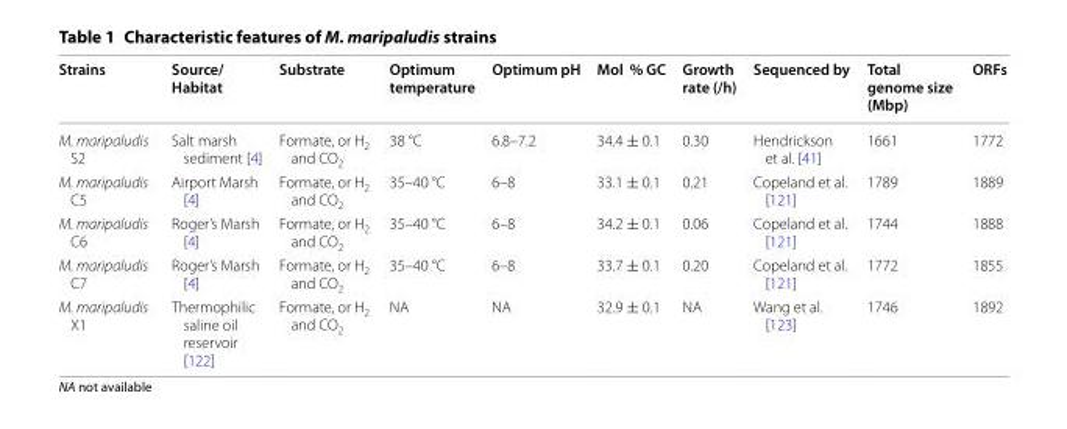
<table><thead><tr><td>Strains</td><td>Source/ Habitat</td><td>Substrate</td><td>Optimum temperature</td><td>Optimum pH</td><td>Mol % GC</td><td>Growth rate (/h)</td><td>Sequenced by</td><td>Total genome size (Mbp)</td><td>ORFs</td></tr></thead><tbody><tr><td>M. maripaludis S2</td><td>Salt marsh sediment [4]</td><td>Formate, or H<sub>2</sub> and CO<sub>2</sub></td><td>38 °C</td><td>6.8–7.2</td><td>34.4 ± 0.1</td><td>0.30</td><td>Hendrickson et al. [41]</td><td>1661</td><td>1772</td></tr><tr><td>M. maripaludis C5</td><td>Airport Marsh [4]</td><td>Formate, or H<sub>2</sub> and CO<sub>2</sub></td><td>35–40 °C</td><td>6–8</td><td>33.1 ± 0.1</td><td>0.21</td><td>Copeland et al. [121]</td><td>1789</td><td>1889</td></tr><tr><td>M. maripaludis C6</td><td>Roger’s Marsh [4]</td><td>Formate, or H<sub>2</sub> and CO<sub>2</sub></td><td>35–40 °C</td><td>6–8</td><td>34.2 ± 0.1</td><td>0.06</td><td>Copeland et al. [121]</td><td>1744</td><td>1888</td></tr><tr><td>M. maripaludis C7</td><td>Roger’s Marsh [4]</td><td>Formate, or H<sub>2</sub> and CO<sub>2</sub></td><td>35–40 °C</td><td>6–8</td><td>33.7 ± 0.1</td><td>0.20</td><td>Copeland et al. [121]</td><td>1772</td><td>1855</td></tr><tr><td>M. maripaludis X1</td><td>Thermophilic saline oil reservoir [122]</td><td>Formate, or H<sub>2</sub> and CO<sub>2</sub></td><td>NA</td><td>NA</td><td>32.9 ± 0.1</td><td>NA</td><td>Wang et al. [123]</td><td>1746</td><td>1892</td></tr></tbody></table>